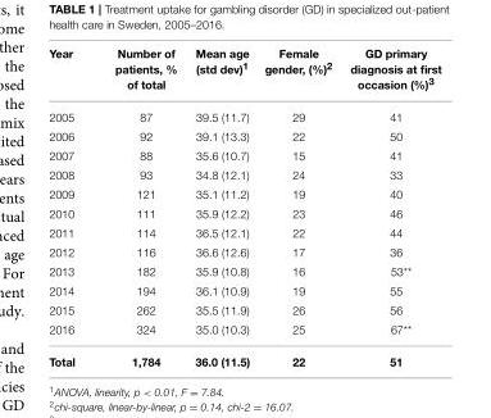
<table><thead><tr><td>Year</td><td>Number of patients, % of total</td><td>Mean age (std dev)<sup>1</sup></td><td>Female gender, (%)<sup>2</sup></td><td>GD primary diagnosis at first occasion (%)<sup>3</sup></td></tr></thead><tbody><tr><td>2005</td><td>87</td><td>39.5 (11.7)</td><td>29</td><td>41</td></tr><tr><td>2006</td><td>92</td><td>39.1 (13.3)</td><td>22</td><td>50</td></tr><tr><td>2007</td><td>88</td><td>35.6 (10.7)</td><td>15</td><td>41</td></tr><tr><td>2008</td><td>93</td><td>34.8 (12.1)</td><td>24</td><td>33</td></tr><tr><td>2009</td><td>121</td><td>35.1 (11.2)</td><td>19</td><td>40</td></tr><tr><td>2010</td><td>111</td><td>35.9 (12.2)</td><td>23</td><td>46</td></tr><tr><td>2011</td><td>114</td><td>36.5 (12.1)</td><td>22</td><td>44</td></tr><tr><td>2012</td><td>116</td><td>36.6 (12.6)</td><td>17</td><td>36</td></tr><tr><td>2013</td><td>182</td><td>35.9 (10.8)</td><td>16</td><td>53**</td></tr><tr><td>2014</td><td>194</td><td>36.1 (10.9)</td><td>19</td><td>55</td></tr><tr><td>2015</td><td>262</td><td>35.5 (11.9)</td><td>26</td><td>56</td></tr><tr><td>2016</td><td>324</td><td>35.0 (10.3)</td><td>25</td><td>67**</td></tr><tr><td>Total</td><td>1,784</td><td>36.0 (11.5)</td><td>22</td><td>51</td></tr></tbody></table>